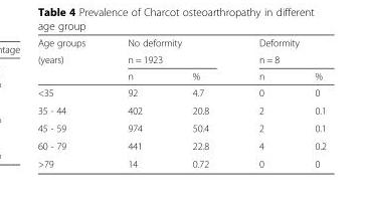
<table><thead><tr><td rowspan="3">Age groups (years)</td><td rowspan="2" colspan="2">No deformity n = 1923</td><td rowspan="2" colspan="2">Deformity n = 8</td></tr><tr></tr><tr><td>n</td><td>%</td><td>n</td><td>%</td></tr></thead><tbody><tr><td>&lt;35</td><td>92</td><td>4.7</td><td>0</td><td>0</td></tr><tr><td>35 - 44</td><td>402</td><td>20.8</td><td>2</td><td>0.1</td></tr><tr><td>45 - 59</td><td>974</td><td>50.4</td><td>2</td><td>0.1</td></tr><tr><td>60 - 79</td><td>441</td><td>22.8</td><td>4</td><td>0.2</td></tr><tr><td>&gt;79</td><td>14</td><td>0.72</td><td>0</td><td>0</td></tr></tbody></table>